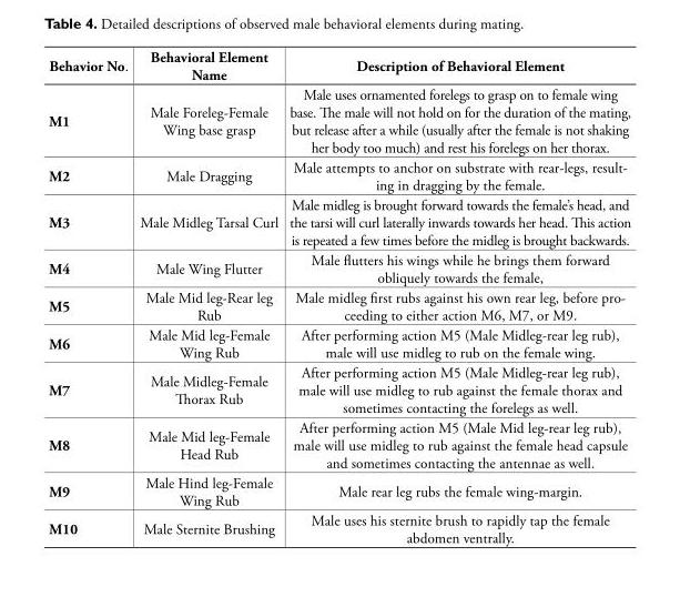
<table><thead><tr><td>Behavior No.</td><td>Behavioral Element Name</td><td>Description of Behavioral Element</td></tr></thead><tbody><tr><td>M1</td><td>Male Foreleg-Female Wing base grasp</td><td>Male uses ornamented forelegs to grasp on to female wing base. The male will not hold on for the duration of the mating, but release after a while (usually after the female is not shaking her body too much) and rest his forelegs on her thorax.</td></tr><tr><td>M2</td><td>Male Dragging</td><td>Male attempts to anchor on substrate with rear-legs, result- ing in dragging by the female.</td></tr><tr><td>M3</td><td>Male Midleg Tarsal Curl</td><td>Male midleg is brought forward towards the female’s head, and the tarsi will curl laterally inwards towards her head. This action is repeated a few times before the midleg is brought backwards.</td></tr><tr><td>M4</td><td>Male Wing Flutter</td><td>Male flutters his wings while he brings them forward obliquely towards the female,</td></tr><tr><td>M5</td><td>Male Mid leg-Rear leg Rub</td><td>Male midleg first rubs against his own rear leg, before pro- ceeding to either action M6, M7, or M9.</td></tr><tr><td>M6</td><td>Male Mid leg-Female Wing Rub</td><td>After performing action M5 (Male Midleg-rear leg rub), male will use midleg to rub on the female wing.</td></tr><tr><td>M7</td><td>Male Midleg-Female Thorax Rub</td><td>After performing action M5 (Male Midleg-rear leg rub), male will use midleg to rub against the female thorax and sometimes contacting the forelegs as well.</td></tr><tr><td>M8</td><td>Male Mid leg-Female Head Rub</td><td>After performing action M5 (Male Mid leg-rear leg rub), male will use midleg to rub against the female head capsule and sometimes contacting the antennae as well.</td></tr><tr><td>M9</td><td>Male Hind leg-Female Wing Rub</td><td>Male rear leg rubs the female wing-margin.</td></tr><tr><td>M10</td><td>Male Sternite Brushing</td><td>Male uses his sternite brush to rapidly tap the female abdomen ventrally.</td></tr></tbody></table>